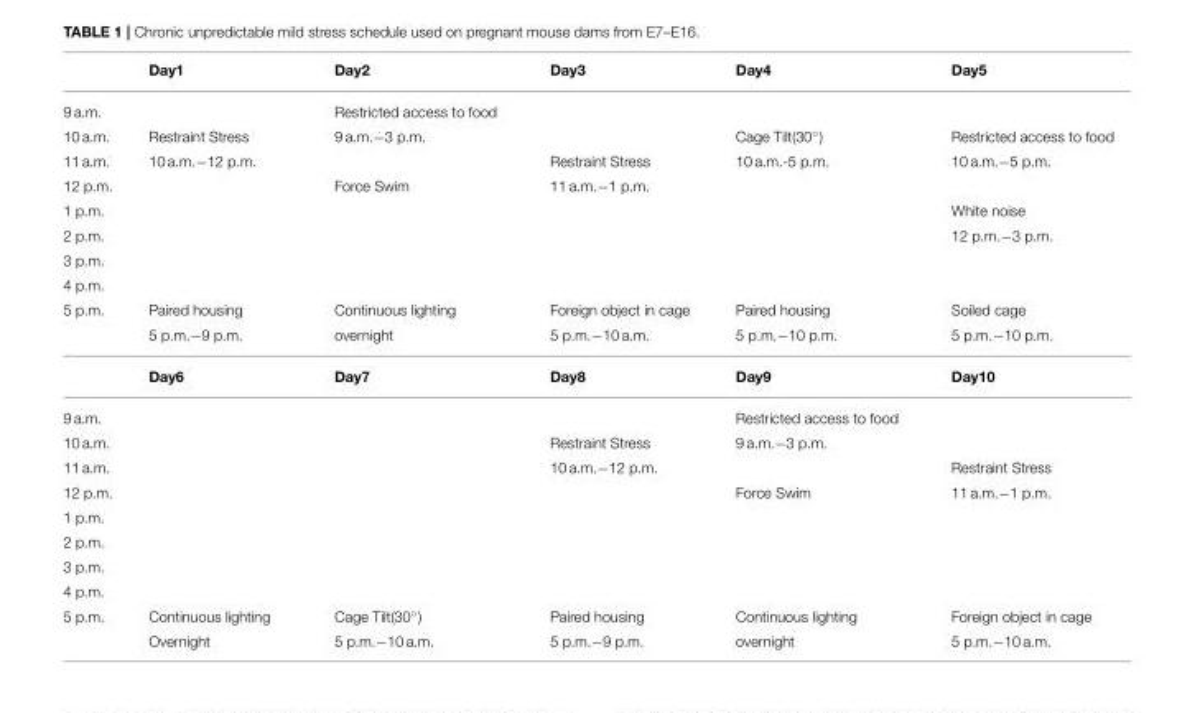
<table><thead><tr><td></td><td>Day1</td><td>Day2</td><td>Day3</td><td>Day4</td><td>Day5</td></tr></thead><tbody><tr><td>9 a.m.</td><td></td><td>Restricted access to food</td><td></td><td></td><td></td></tr><tr><td>10 a.m.</td><td>Restraint Stress</td><td>9 a.m.−3 p.m.</td><td></td><td>Cage Tilt(30◦)</td><td>Restricted access to food</td></tr><tr><td>11 a.m.</td><td>10 a.m.−12 p.m.</td><td></td><td>Restraint Stress</td><td>10 a.m.-5 p.m.</td><td>10 a.m.−5 p.m.</td></tr><tr><td>12 p.m.</td><td></td><td>Force Swim</td><td>11 a.m.−1 p.m.</td><td></td><td></td></tr><tr><td>1 p.m.</td><td></td><td></td><td></td><td></td><td>White noise</td></tr><tr><td>2 p.m.</td><td></td><td></td><td></td><td></td><td>12 p.m.−3 p.m.</td></tr><tr><td colspan="6">3 p.m.</td></tr><tr><td colspan="6">4 p.m.</td></tr><tr><td rowspan="3">5 p.m.</td><td>Paired housing</td><td>Continuous lighting</td><td>Foreign object in cage</td><td>Paired housing</td><td>Soiled cage</td></tr><tr><td>5 p.m.−9 p.m.</td><td>overnight</td><td>5 p.m.−10 a.m.</td><td>5 p.m.−10 p.m.</td><td>5 p.m.−10 p.m.</td></tr><tr><td>Day6</td><td>Day7</td><td>Day8</td><td>Day9</td><td>Day10</td></tr><tr><td>9 a.m.</td><td></td><td></td><td></td><td>Restricted access to food</td><td></td></tr><tr><td>10 a.m.</td><td></td><td></td><td>Restraint Stress</td><td>9 a.m.−3 p.m.</td><td></td></tr><tr><td>11 a.m.</td><td></td><td></td><td>10 a.m.−12 p.m.</td><td></td><td>Restraint Stress</td></tr><tr><td>12 p.m.</td><td></td><td></td><td></td><td>Force Swim</td><td>11 a.m.−1 p.m.</td></tr><tr><td colspan="6">1 p.m.</td></tr><tr><td colspan="6">2 p.m.</td></tr><tr><td colspan="6">3 p.m.</td></tr><tr><td colspan="6">4 p.m.</td></tr><tr><td rowspan="2">5 p.m.</td><td>Continuous lighting</td><td>Cage Tilt(30◦)</td><td>Paired housing</td><td>Continuous lighting</td><td>Foreign object in cage</td></tr><tr><td>Overnight</td><td>5 p.m.−10 a.m.</td><td>5 p.m.−9 p.m.</td><td>overnight</td><td>5 p.m.−10 a.m.</td></tr></tbody></table>